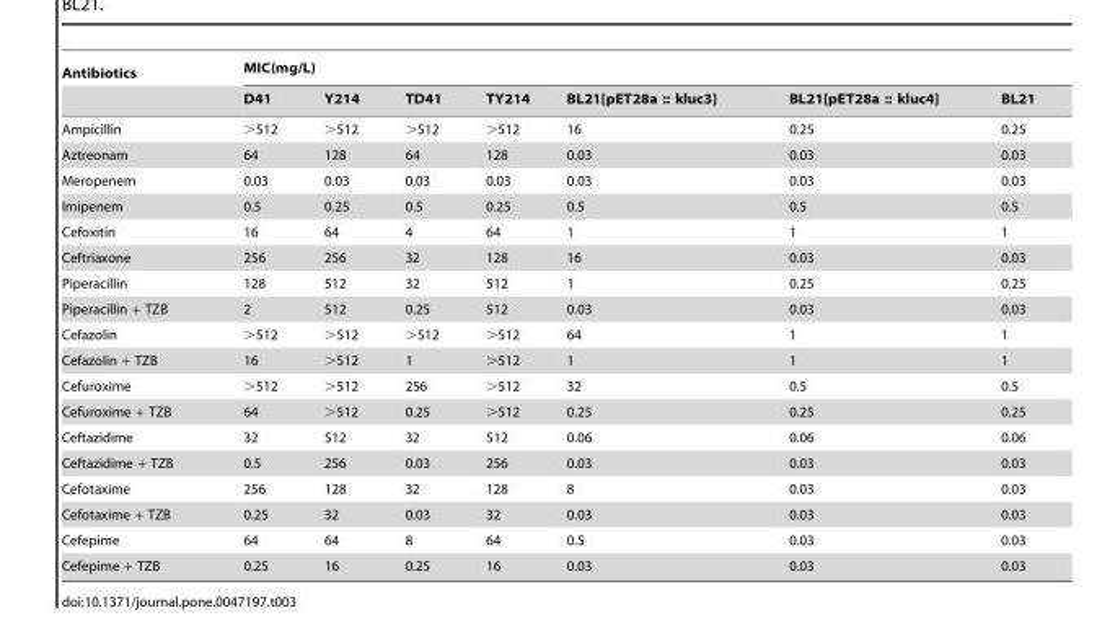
<table><thead><tr><td rowspan="2">Antibiotics</td><td colspan="7">MIC(mg/L)</td></tr><tr><td>D41</td><td>Y214</td><td>TD41</td><td>TY214</td><td>BL21[pET28a :: kluc3]</td><td>BL21[pET28a :: kluc4]</td><td>BL21</td></tr></thead><tbody><tr><td>Ampicillin</td><td>&gt;512</td><td>&gt;512</td><td>&gt;512</td><td>&gt;512</td><td>16</td><td>0.25</td><td>0.25</td></tr><tr><td>Aztreonam</td><td>64</td><td>128</td><td>64</td><td>128</td><td>0.03</td><td>0.03</td><td>0.03</td></tr><tr><td>Meropenem</td><td>0.03</td><td>0.03</td><td>0.03</td><td>0.03</td><td>0.03</td><td>0.03</td><td>0.03</td></tr><tr><td>Imipenem</td><td>0.5</td><td>0.25</td><td>0.5</td><td>0.25</td><td>0.5</td><td>0.5</td><td>0.5</td></tr><tr><td>Cefoxitin</td><td>16</td><td>64</td><td>4</td><td>64</td><td>1</td><td>1</td><td>1</td></tr><tr><td>Ceftriaxone</td><td>256</td><td>256</td><td>32</td><td>128</td><td>16</td><td>0.03</td><td>0.03</td></tr><tr><td>Piperacillin</td><td>128</td><td>512</td><td>32</td><td>512</td><td>1</td><td>0.25</td><td>0.25</td></tr><tr><td>Piperacillin + TZB</td><td>2</td><td>512</td><td>0.25</td><td>512</td><td>0.03</td><td>0.03</td><td>0.03</td></tr><tr><td>Cefazolin</td><td>&gt;512</td><td>&gt;512</td><td>&gt;512</td><td>&gt;512</td><td>64</td><td>1</td><td>1</td></tr><tr><td>Cefazolin + TZB</td><td>16</td><td>&gt;512</td><td>1</td><td>&gt;512</td><td>1</td><td>1</td><td>1</td></tr><tr><td>Cefuroxime</td><td>&gt;512</td><td>&gt;512</td><td>256</td><td>&gt;512</td><td>32</td><td>0.5</td><td>0.5</td></tr><tr><td>Cefuroxime + TZB</td><td>64</td><td>&gt;512</td><td>0.25</td><td>&gt;512</td><td>0.25</td><td>0.25</td><td>0.25</td></tr><tr><td>Ceftazidime</td><td>32</td><td>512</td><td>32</td><td>512</td><td>0.06</td><td>0.06</td><td>0.06</td></tr><tr><td>Ceftazidime + TZB</td><td>0.5</td><td>256</td><td>0.03</td><td>256</td><td>0.03</td><td>0.03</td><td>0.03</td></tr><tr><td>Cefotaxime</td><td>256</td><td>128</td><td>32</td><td>128</td><td>8</td><td>0.03</td><td>0.03</td></tr><tr><td>Cefotaxime + TZB</td><td>0.25</td><td>32</td><td>0.03</td><td>32</td><td>0.03</td><td>0.03</td><td>0.03</td></tr><tr><td>Cefepime</td><td>64</td><td>64</td><td>8</td><td>64</td><td>0.5</td><td>0.03</td><td>0.03</td></tr><tr><td>Cefepime + TZB</td><td>0.25</td><td>16</td><td>0.25</td><td>16</td><td>0.03</td><td>0.03</td><td>0.03</td></tr></tbody></table>